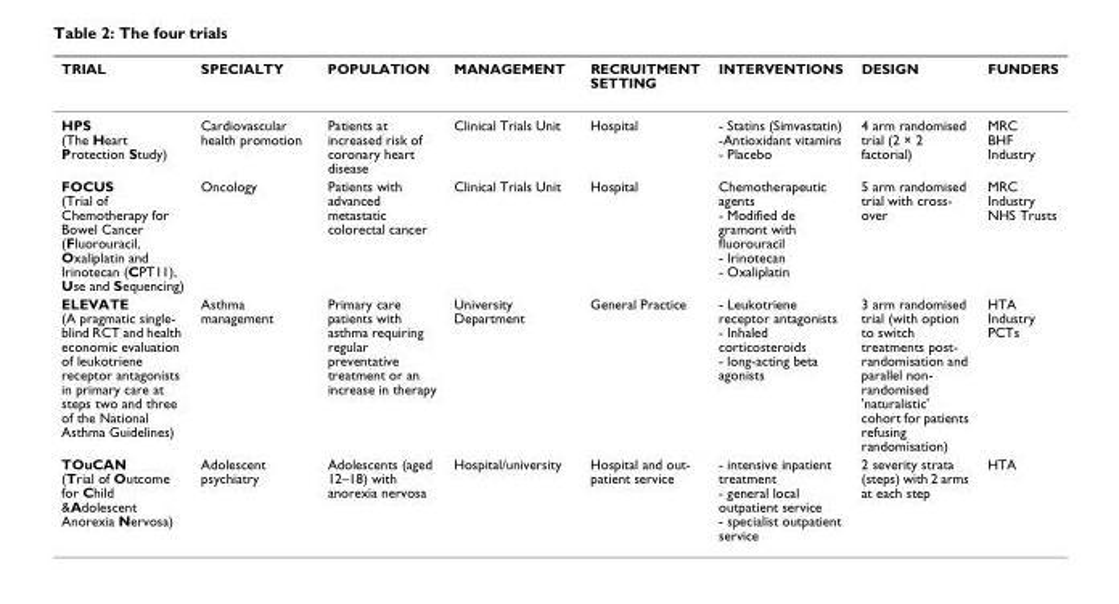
<table><thead><tr><td>TRIAL</td><td>SPECIALTY</td><td>POPULATION</td><td>MANAGEMENT</td><td>RECRUITMENT SETTING</td><td>INTERVENTIONS</td><td>DESIGN</td><td>FUNDERS</td></tr></thead><tbody><tr><td>HPS (The Heart Protection Study)</td><td>Cardiovascular health promotion</td><td>Patients at increased risk of coronary heart disease</td><td>Clinical Trials Unit</td><td>Hospital</td><td>- Statins (Simvastatin) -Antioxidant vitamins - Placebo</td><td>4 arm randomised trial (2 × 2 factorial)</td><td>MRC BHF Industry</td></tr><tr><td>FOCUS (Trial of Chemotherapy for Bowel Cancer (Fluorouracil, Oxaliplatin and Irinotecan (CPT11), Use and Sequencing)</td><td>Oncology</td><td>Patients with advanced metastatic colorectal cancer</td><td>Clinical Trials Unit</td><td>Hospital</td><td>Chemotherapeutic agents - Modified de gramont with fluorouracil - Irinotecan - Oxaliplatin</td><td>5 arm randomised trial with cross- over</td><td>MRC Industry NHS Trusts</td></tr><tr><td>ELEVATE (A pragmatic single- blind RCT and health economic evaluation of leukotriene receptor antagonists in primary care at steps two and three of the National Asthma Guidelines)</td><td>Asthma management</td><td>Primary care patients with asthma requiring regular preventative treatment or an increase in therapy</td><td>University Department</td><td>General Practice</td><td>- Leukotriene receptor antagonists - Inhaled corticosteroids - long-acting beta agonists</td><td>3 arm randomised trial (with option to switch treatments post- randomisation and parallel non- randomised &#x27;naturalistic&#x27; cohort for patients refusing randomisation)</td><td>HTA Industry PCTs</td></tr><tr><td>TOuCAN (Trial of Outcome for Child &amp;Adolescent Anorexia Nervosa)</td><td>Adolescent psychiatry</td><td>Adolescents (aged 12–18) with anorexia nervosa</td><td>Hospital/university</td><td>Hospital and out- patient service</td><td>- intensive inpatient treatment - general local outpatient service - specialist outpatient service</td><td>2 severity strata (steps) with 2 arms at each step</td><td>HTA</td></tr></tbody></table>